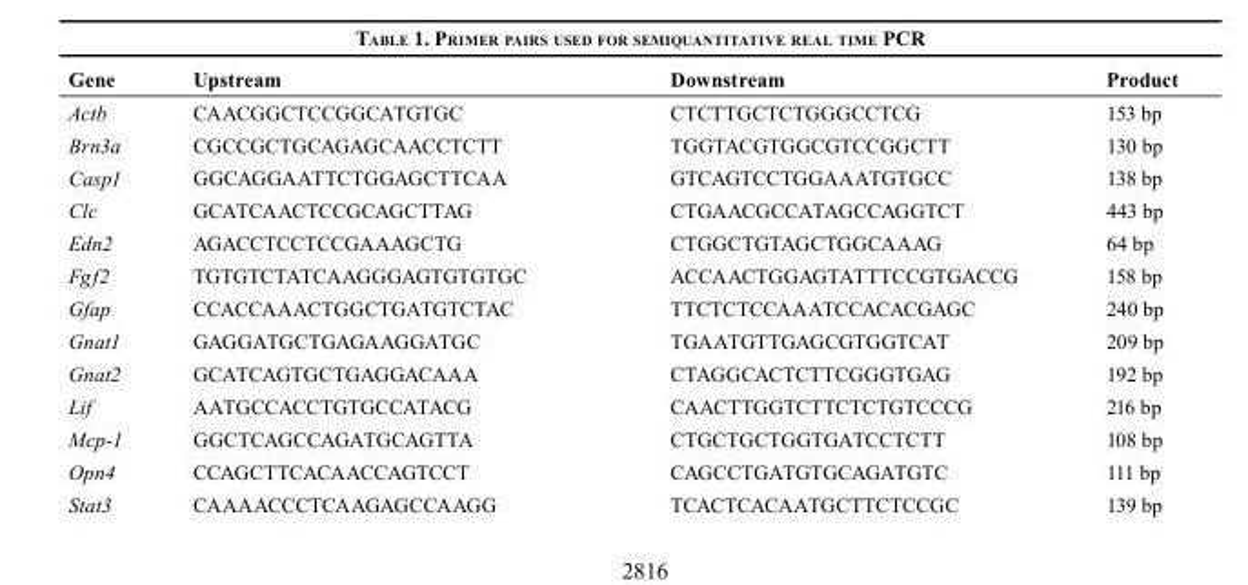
<table><thead><tr><td>Gene</td><td>Upstream</td><td>Downstream</td><td>Product</td></tr></thead><tbody><tr><td>Actb</td><td>CAACGGCTCCGGCATGTGC</td><td>CTCTTGCTCTGGGCCTCG</td><td>153 bp</td></tr><tr><td>Brn3a</td><td>CGCCGCTGCAGAGCAACCTCTT</td><td>TGGTACGTGGCGTCCGGCTT</td><td>130 bp</td></tr><tr><td>Casp1</td><td>GGCAGGAATTCTGGAGCTTCAA</td><td>GTCAGTCCTGGAAATGTGCC</td><td>138 bp</td></tr><tr><td>Clc</td><td>GCATCAACTCCGCAGCTTAG</td><td>CTGAACGCCATAGCCAGGTCT</td><td>443 bp</td></tr><tr><td>Edn2</td><td>AGACCTCCTCCGAAAGCTG</td><td>CTGGCTGTAGCTGGCAAAG</td><td>64 bp</td></tr><tr><td>Fgf2</td><td>TGTGTCTATCAAGGGAGTGTGTGC</td><td>ACCAACTGGAGTATTTCCGTGACCG</td><td>158 bp</td></tr><tr><td>Gfap</td><td>CCACCAAACTGGCTGATGTCTAC</td><td>TTCTCTCCAAATCCACACGAGC</td><td>240 bp</td></tr><tr><td>Gnat1</td><td>GAGGATGCTGAGAAGGATGC</td><td>TGAATGTTGAGCGTGGTCAT</td><td>209 bp</td></tr><tr><td>Gnat2</td><td>GCATCAGTGCTGAGGACAAA</td><td>CTAGGCACTCTTCGGGTGAG</td><td>192 bp</td></tr><tr><td>Lif</td><td>AATGCCACCTGTGCCATACG</td><td>CAACTTGGTCTTCTCTGTCCCG</td><td>216 bp</td></tr><tr><td>Mcp-1</td><td>GGCTCAGCCAGATGCAGTTA</td><td>CTGCTGCTGGTGATCCTCTT</td><td>108 bp</td></tr><tr><td>Opn4</td><td>CCAGCTTCACAACCAGTCCT</td><td>CAGCCTGATGTGCAGATGTC</td><td>111 bp</td></tr><tr><td>Stat3</td><td>CAAAACCCTCAAGAGCCAAGG</td><td>TCACTCACAATGCTTCTCCGC</td><td>139 bp</td></tr></tbody></table>